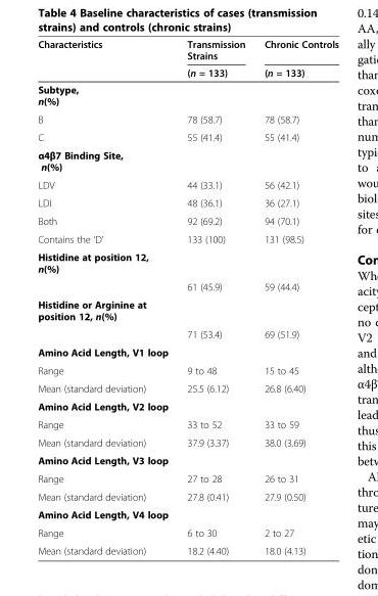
<table><thead><tr><td rowspan="2">Characteristics</td><td rowspan="2">Transmission Strains (n = 133)</td><td rowspan="2">Chronic Controls (n = 133)</td></tr><tr></tr></thead><tbody><tr><td colspan="3">Subtype, n(%)</td></tr><tr><td>B</td><td>78 (58.7)</td><td>78 (58.7)</td></tr><tr><td>C</td><td>55 (41.4)</td><td>55 (41.4)</td></tr><tr><td colspan="3">α4β7 Binding Site, n(%)</td></tr><tr><td>LDV</td><td>44 (33.1)</td><td>56 (42.1)</td></tr><tr><td>LDI</td><td>48 (36.1)</td><td>36 (27.1)</td></tr><tr><td>Both</td><td>92 (69.2)</td><td>94 (70.1)</td></tr><tr><td>Contains the ‘D’</td><td>133 (100)</td><td>131 (98.5)</td></tr><tr><td colspan="3">Histidine at position 12, n(%)</td></tr><tr><td></td><td>61 (45.9)</td><td>59 (44.4)</td></tr><tr><td colspan="3">Histidine or Arginine at position 12, n(%)</td></tr><tr><td></td><td>71 (53.4)</td><td>69 (51.9)</td></tr><tr><td colspan="3">Amino Acid Length, V1 loop</td></tr><tr><td>Range</td><td>9 to 48</td><td>15 to 45</td></tr><tr><td>Mean (standard deviation)</td><td>25.5 (6.12)</td><td>26.8 (6.40)</td></tr><tr><td colspan="3">Amino Acid Length, V2 loop</td></tr><tr><td>Range</td><td>33 to 52</td><td>33 to 59</td></tr><tr><td>Mean (standard deviation)</td><td>37.9 (3.37)</td><td>38.0 (3.69)</td></tr><tr><td colspan="3">Amino Acid Length, V3 loop</td></tr><tr><td>Range</td><td>27 to 28</td><td>26 to 31</td></tr><tr><td>Mean (standard deviation)</td><td>27.8 (0.41)</td><td>27.9 (0.50)</td></tr><tr><td colspan="3">Amino Acid Length, V4 loop</td></tr><tr><td>Range</td><td>6 to 30</td><td>2 to 27</td></tr><tr><td>Mean (standard deviation)</td><td>18.2 (4.40)</td><td>18.0 (4.13)</td></tr></tbody></table>